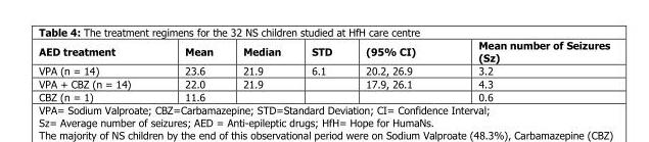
<table><thead><tr><td>AED treatment</td><td>Mean</td><td>Median</td><td>STD</td><td>(95% CI)</td><td>Mean number of Seizures (Sz)</td></tr></thead><tbody><tr><td>VPA (n = 14)</td><td>23.6</td><td>21.9</td><td>6.1</td><td>20.2, 26.9</td><td>3.2</td></tr><tr><td>VPA + CBZ (n = 14)</td><td>22.0</td><td>21.9</td><td></td><td>17.9, 26.1</td><td>4.3</td></tr><tr><td>CBZ (n = 1)</td><td>11.6</td><td></td><td></td><td></td><td>0.6</td></tr></tbody></table>